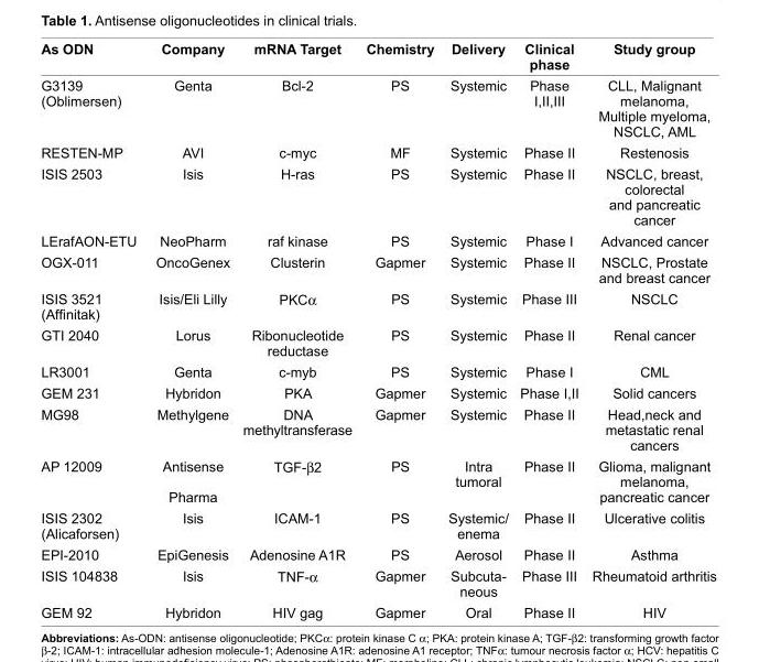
<table><thead><tr><td>As ODN</td><td>Company</td><td>mRNA Target</td><td>Chemistry</td><td>Delivery</td><td>Clinical phase</td><td>Study group</td></tr></thead><tbody><tr><td>G3139 (Oblimersen)</td><td>Genta</td><td>Bcl-2</td><td>PS</td><td>Systemic</td><td>Phase I,II,III</td><td>CLL, Malignant melanoma, Multiple myeloma, NSCLC, AML</td></tr><tr><td>RESTEN-MP</td><td>AVI</td><td>c-myc</td><td>MF</td><td>Systemic</td><td>Phase II</td><td>Restenosis</td></tr><tr><td>ISIS 2503</td><td>Isis</td><td>H-ras</td><td>PS</td><td>Systemic</td><td>Phase II</td><td>NSCLC, breast, colorectal and pancreatic cancer</td></tr><tr><td>LErafAON-ETU</td><td>NeoPharm</td><td>raf kinase</td><td>PS</td><td>Systemic</td><td>Phase I</td><td>Advanced cancer</td></tr><tr><td>OGX-011</td><td>OncoGenex</td><td>Clusterin</td><td>Gapmer</td><td>Systemic</td><td>Phase II</td><td>NSCLC, Prostate and breast cancer</td></tr><tr><td>ISIS 3521 (Affi nitak)</td><td>Isis/Eli Lilly</td><td>PKCα</td><td>PS</td><td>Systemic</td><td>Phase III</td><td>NSCLC</td></tr><tr><td>GTI 2040</td><td>Lorus</td><td>Ribonucleotide reductase</td><td>PS</td><td>Systemic</td><td>Phase II</td><td>Renal cancer</td></tr><tr><td>LR3001</td><td>Genta</td><td>c-myb</td><td>PS</td><td>Systemic</td><td>Phase I</td><td>CML</td></tr><tr><td>GEM 231</td><td>Hybridon</td><td>PKA</td><td>Gapmer</td><td>Systemic</td><td>Phase I,II</td><td>Solid cancers</td></tr><tr><td>MG98</td><td>Methylgene</td><td>DNA methyltransferase</td><td>Gapmer</td><td>Systemic</td><td>Phase II</td><td>Head,neck and metastatic renal cancers</td></tr><tr><td>AP 12009</td><td>Antisense Pharma</td><td>TGF-β2</td><td>PS</td><td>Intra tumoral</td><td>Phase II</td><td>Glioma, malignant melanoma, pancreatic cancer</td></tr><tr><td>ISIS 2302 (Alicaforsen)</td><td>Isis</td><td>ICAM-1</td><td>PS</td><td>Systemic/ enema</td><td>Phase II</td><td>Ulcerative colitis</td></tr><tr><td>EPI-2010</td><td>EpiGenesis</td><td>Adenosine A1R</td><td>PS</td><td>Aerosol</td><td>Phase II</td><td>Asthma</td></tr><tr><td>ISIS 104838</td><td>Isis</td><td>TNF-α</td><td>Gapmer</td><td>Subcuta- neous</td><td>Phase III</td><td>Rheumatoid arthritis</td></tr><tr><td>GEM 92</td><td>Hybridon</td><td>HIV gag</td><td>Gapmer</td><td>Oral</td><td>Phase II</td><td>HIV</td></tr></tbody></table>